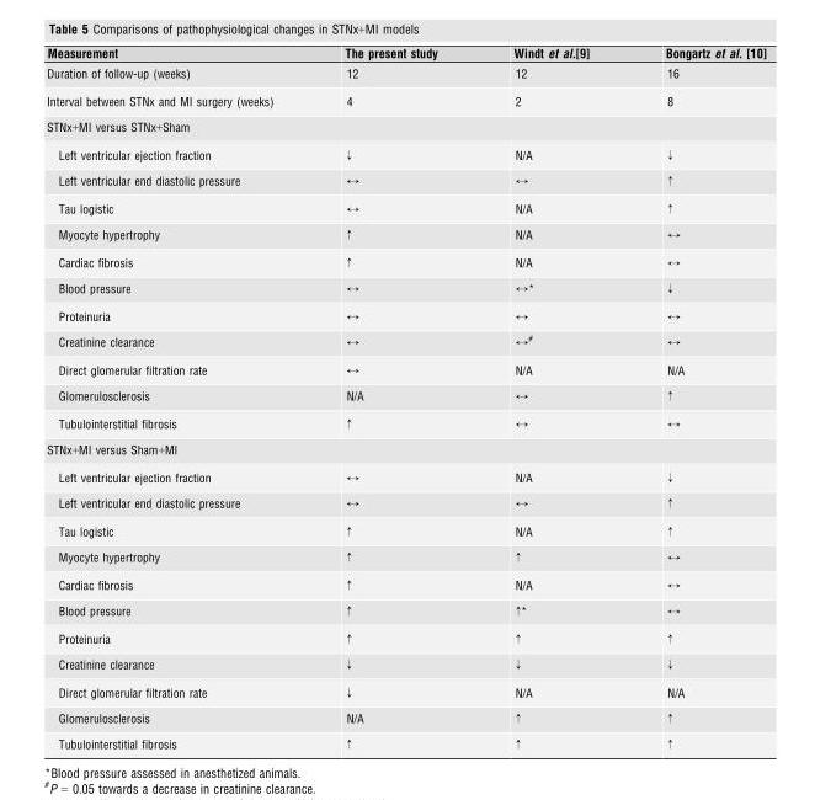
<table><thead><tr><td>Measurement</td><td>The present study</td><td>Windt et al.[9]</td><td>Bongartz et al. [10]</td></tr></thead><tbody><tr><td>Duration of follow-up (weeks)</td><td>12</td><td>12</td><td>16</td></tr><tr><td>Interval between STNx and MI surgery (weeks)</td><td>4</td><td>2</td><td>8</td></tr><tr><td colspan="4">STNx+MI versus STNx+Sham</td></tr><tr><td>Left ventricular ejection fraction</td><td>↓</td><td>N/A</td><td>↓</td></tr><tr><td>Left ventricular end diastolic pressure</td><td>↔</td><td>↔</td><td>↑</td></tr><tr><td>Tau logistic</td><td>↔</td><td>N/A</td><td>↑</td></tr><tr><td>Myocyte hypertrophy</td><td>↑</td><td>N/A</td><td>↔</td></tr><tr><td>Cardiac fibrosis</td><td>↑</td><td>N/A</td><td>↔</td></tr><tr><td>Blood pressure</td><td>↔</td><td>↔*</td><td>↓</td></tr><tr><td>Proteinuria</td><td>↔</td><td>↔</td><td>↔</td></tr><tr><td>Creatinine clearance</td><td>↔</td><td>↔#</td><td>↔</td></tr><tr><td>Direct glomerular filtration rate</td><td>↔</td><td>N/A</td><td>N/A</td></tr><tr><td>Glomerulosclerosis</td><td>N/A</td><td>↔</td><td>↑</td></tr><tr><td>Tubulointerstitial fibrosis</td><td>↑</td><td>↔</td><td>↔</td></tr><tr><td colspan="4">STNx+MI versus Sham+MI</td></tr><tr><td>Left ventricular ejection fraction</td><td>↔</td><td>N/A</td><td>↓</td></tr><tr><td>Left ventricular end diastolic pressure</td><td>↔</td><td>↔</td><td>↑</td></tr><tr><td>Tau logistic</td><td>↑</td><td>N/A</td><td>↑</td></tr><tr><td>Myocyte hypertrophy</td><td>↑</td><td>↑</td><td>↔</td></tr><tr><td>Cardiac fibrosis</td><td>↑</td><td>N/A</td><td>↔</td></tr><tr><td>Blood pressure</td><td>↑</td><td>↑*</td><td>↔</td></tr><tr><td>Proteinuria</td><td>↑</td><td>↑</td><td>↑</td></tr><tr><td>Creatinine clearance</td><td>↓</td><td>↓</td><td>↓</td></tr><tr><td>Direct glomerular filtration rate</td><td>↓</td><td>N/A</td><td>N/A</td></tr><tr><td>Glomerulosclerosis</td><td>N/A</td><td>↑</td><td>↑</td></tr><tr><td>Tubulointerstitial fibrosis</td><td>↑</td><td>↑</td><td>↑</td></tr></tbody></table>